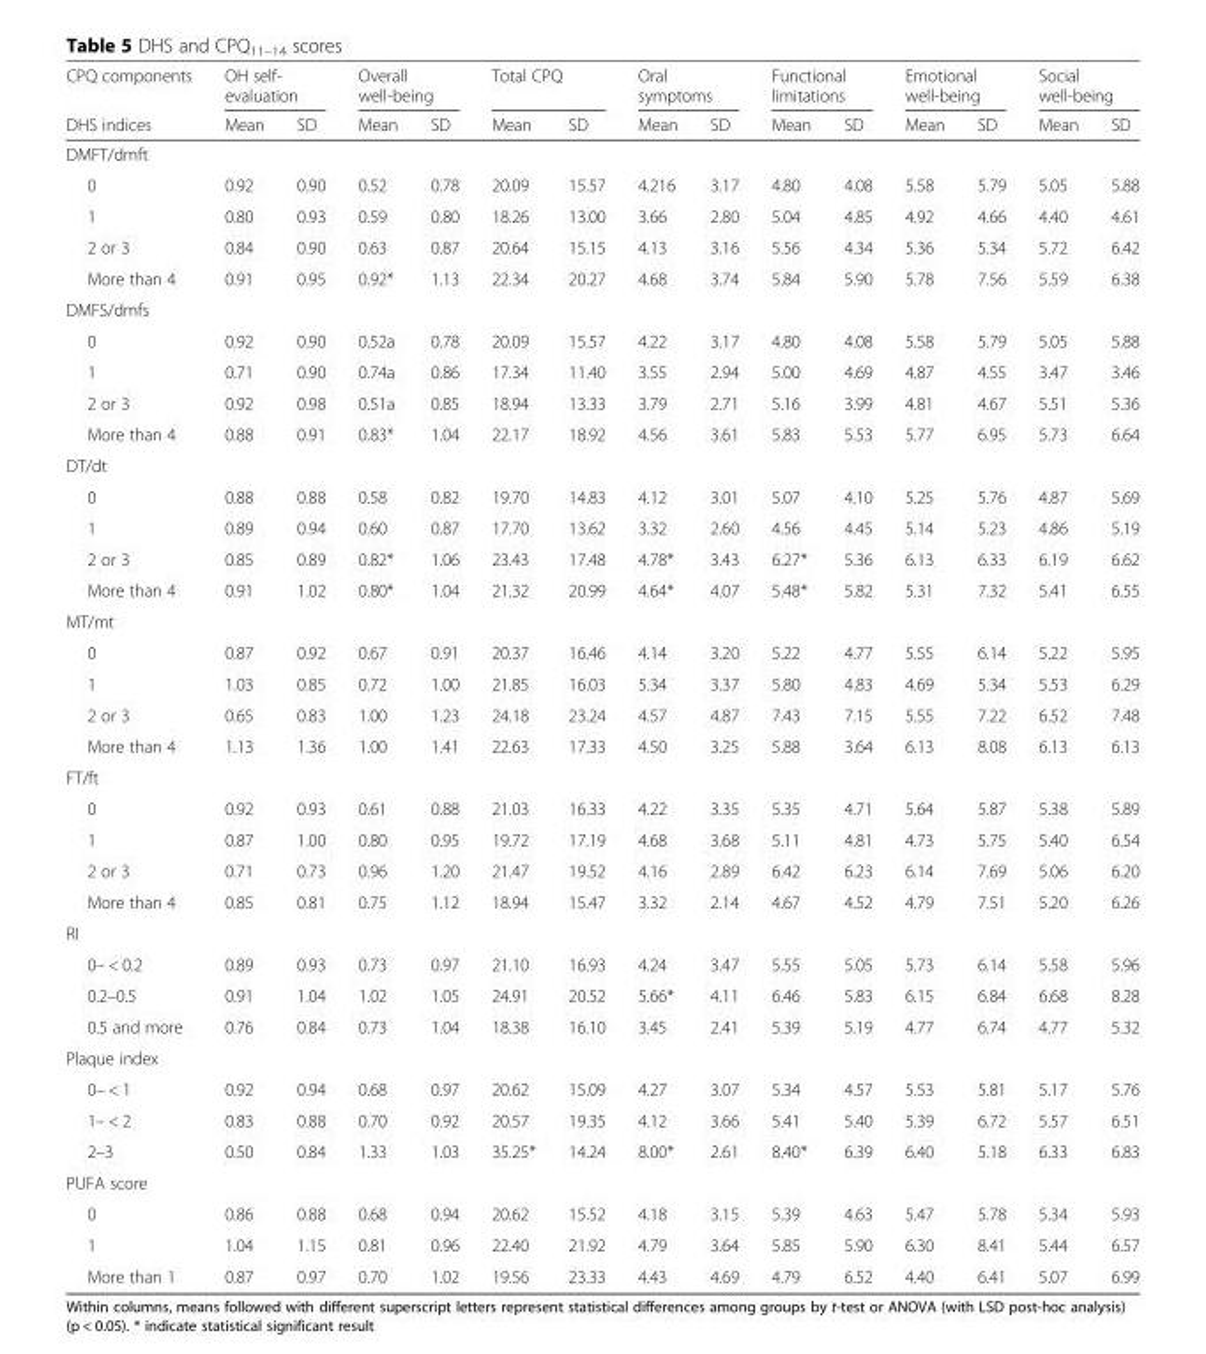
<table><thead><tr><td rowspan="2">CPQ components DHS indices</td><td colspan="2">OH self- evaluation</td><td colspan="2">Overall well-being</td><td colspan="2">Total CPQ</td><td colspan="2">Oral symptoms</td><td colspan="2">Functional limitations</td><td colspan="2">Emotional well-being</td><td colspan="2">Social well-being</td></tr><tr><td>Mean</td><td>SD</td><td>Mean</td><td>SD</td><td>Mean</td><td>SD</td><td>Mean</td><td>SD</td><td>Mean</td><td>SD</td><td>Mean</td><td>SD</td><td>Mean</td><td>SD</td></tr></thead><tbody><tr><td colspan="15">DMFT/dmft</td></tr><tr><td>0</td><td>0.92</td><td>0.90</td><td>0.52</td><td>0.78</td><td>20.09</td><td>15.57</td><td>4.216</td><td>3.17</td><td>4.80</td><td>4.08</td><td>5.58</td><td>5.79</td><td>5.05</td><td>5.88</td></tr><tr><td>1</td><td>0.80</td><td>0.93</td><td>0.59</td><td>0.80</td><td>18.26</td><td>13.00</td><td>3.66</td><td>2.80</td><td>5.04</td><td>4.85</td><td>4.92</td><td>4.66</td><td>4.40</td><td>4.61</td></tr><tr><td>2 or 3</td><td>0.84</td><td>0.90</td><td>0.63</td><td>0.87</td><td>20.64</td><td>15.15</td><td>4.13</td><td>3.16</td><td>5.56</td><td>4.34</td><td>5.36</td><td>5.34</td><td>5.72</td><td>6.42</td></tr><tr><td>More than 4</td><td>0.91</td><td>0.95</td><td>0.92*</td><td>1.13</td><td>22.34</td><td>20.27</td><td>4.68</td><td>3.74</td><td>5.84</td><td>5.90</td><td>5.78</td><td>7.56</td><td>5.59</td><td>6.38</td></tr><tr><td colspan="15">DMFS/dmfs</td></tr><tr><td>0</td><td>0.92</td><td>0.90</td><td>0.52a</td><td>0.78</td><td>20.09</td><td>15.57</td><td>4.22</td><td>3.17</td><td>4.80</td><td>4.08</td><td>5.58</td><td>5.79</td><td>5.05</td><td>5.88</td></tr><tr><td>1</td><td>0.71</td><td>0.90</td><td>0.74a</td><td>0.86</td><td>17.34</td><td>11.40</td><td>3.55</td><td>2.94</td><td>5.00</td><td>4.69</td><td>4.87</td><td>4.55</td><td>3.47</td><td>3.46</td></tr><tr><td>2 or 3</td><td>0.92</td><td>0.98</td><td>0.51a</td><td>0.85</td><td>18.94</td><td>13.33</td><td>3.79</td><td>2.71</td><td>5.16</td><td>3.99</td><td>4.81</td><td>4.67</td><td>5.51</td><td>5.36</td></tr><tr><td>More than 4</td><td>0.88</td><td>0.91</td><td>0.83*</td><td>1.04</td><td>22.17</td><td>18.92</td><td>4.56</td><td>3.61</td><td>5.83</td><td>5.53</td><td>5.77</td><td>6.95</td><td>5.73</td><td>6.64</td></tr><tr><td colspan="15">DT/dt</td></tr><tr><td>0</td><td>0.88</td><td>0.88</td><td>0.58</td><td>0.82</td><td>19.70</td><td>14.83</td><td>4.12</td><td>3.01</td><td>5.07</td><td>4.10</td><td>5.25</td><td>5.76</td><td>4.87</td><td>5.69</td></tr><tr><td>1</td><td>0.89</td><td>0.94</td><td>0.60</td><td>0.87</td><td>17.70</td><td>13.62</td><td>3.32</td><td>2.60</td><td>4.56</td><td>4.45</td><td>5.14</td><td>5.23</td><td>4.86</td><td>5.19</td></tr><tr><td>2 or 3</td><td>0.85</td><td>0.89</td><td>0.82*</td><td>1.06</td><td>23.43</td><td>17.48</td><td>4.78*</td><td>3.43</td><td>6.27*</td><td>5.36</td><td>6.13</td><td>6.33</td><td>6.19</td><td>6.62</td></tr><tr><td>More than 4</td><td>0.91</td><td>1.02</td><td>0.80*</td><td>1.04</td><td>21.32</td><td>20.99</td><td>4.64*</td><td>4.07</td><td>5.48*</td><td>5.82</td><td>5.31</td><td>7.32</td><td>5.41</td><td>6.55</td></tr><tr><td colspan="15">MT/mt</td></tr><tr><td>0</td><td>0.87</td><td>0.92</td><td>0.67</td><td>0.91</td><td>20.37</td><td>16.46</td><td>4.14</td><td>3.20</td><td>5.22</td><td>4.77</td><td>5.55</td><td>6.14</td><td>5.22</td><td>5.95</td></tr><tr><td>1</td><td>1.03</td><td>0.85</td><td>0.72</td><td>1.00</td><td>21.85</td><td>16.03</td><td>5.34</td><td>3.37</td><td>5.80</td><td>4.83</td><td>4.69</td><td>5.34</td><td>5.53</td><td>6.29</td></tr><tr><td>2 or 3</td><td>0.65</td><td>0.83</td><td>1.00</td><td>1.23</td><td>24.18</td><td>23.24</td><td>4.57</td><td>4.87</td><td>7.43</td><td>7.15</td><td>5.55</td><td>7.22</td><td>6.52</td><td>7.48</td></tr><tr><td>More than 4</td><td>1.13</td><td>1.36</td><td>1.00</td><td>1.41</td><td>22.63</td><td>17.33</td><td>4.50</td><td>3.25</td><td>5.88</td><td>3.64</td><td>6.13</td><td>8.08</td><td>6.13</td><td>6.13</td></tr><tr><td colspan="15">FT/ft</td></tr><tr><td>0</td><td>0.92</td><td>0.93</td><td>0.61</td><td>0.88</td><td>21.03</td><td>16.33</td><td>4.22</td><td>3.35</td><td>5.35</td><td>4.71</td><td>5.64</td><td>5.87</td><td>5.38</td><td>5.89</td></tr><tr><td>1</td><td>0.87</td><td>1.00</td><td>0.80</td><td>0.95</td><td>19.72</td><td>17.19</td><td>4.68</td><td>3.68</td><td>5.11</td><td>4.81</td><td>4.73</td><td>5.75</td><td>5.40</td><td>6.54</td></tr><tr><td>2 or 3</td><td>0.71</td><td>0.73</td><td>0.96</td><td>1.20</td><td>21.47</td><td>19.52</td><td>4.16</td><td>2.89</td><td>6.42</td><td>6.23</td><td>6.14</td><td>7.69</td><td>5.06</td><td>6.20</td></tr><tr><td>More than 4</td><td>0.85</td><td>0.81</td><td>0.75</td><td>1.12</td><td>18.94</td><td>15.47</td><td>3.32</td><td>2.14</td><td>4.67</td><td>4.52</td><td>4.79</td><td>7.51</td><td>5.20</td><td>6.26</td></tr><tr><td colspan="15">RI</td></tr><tr><td>0– &lt; 0.2</td><td>0.89</td><td>0.93</td><td>0.73</td><td>0.97</td><td>21.10</td><td>16.93</td><td>4.24</td><td>3.47</td><td>5.55</td><td>5.05</td><td>5.73</td><td>6.14</td><td>5.58</td><td>5.96</td></tr><tr><td>0.2–0.5</td><td>0.91</td><td>1.04</td><td>1.02</td><td>1.05</td><td>24.91</td><td>20.52</td><td>5.66*</td><td>4.11</td><td>6.46</td><td>5.83</td><td>6.15</td><td>6.84</td><td>6.68</td><td>8.28</td></tr><tr><td>0.5 and more</td><td>0.76</td><td>0.84</td><td>0.73</td><td>1.04</td><td>18.38</td><td>16.10</td><td>3.45</td><td>2.41</td><td>5.39</td><td>5.19</td><td>4.77</td><td>6.74</td><td>4.77</td><td>5.32</td></tr><tr><td colspan="15">Plaque index</td></tr><tr><td>0– &lt; 1</td><td>0.92</td><td>0.94</td><td>0.68</td><td>0.97</td><td>20.62</td><td>15.09</td><td>4.27</td><td>3.07</td><td>5.34</td><td>4.57</td><td>5.53</td><td>5.81</td><td>5.17</td><td>5.76</td></tr><tr><td>1– &lt; 2</td><td>0.83</td><td>0.88</td><td>0.70</td><td>0.92</td><td>20.57</td><td>19.35</td><td>4.12</td><td>3.66</td><td>5.41</td><td>5.40</td><td>5.39</td><td>6.72</td><td>5.57</td><td>6.51</td></tr><tr><td>2–3</td><td>0.50</td><td>0.84</td><td>1.33</td><td>1.03</td><td>35.25*</td><td>14.24</td><td>8.00*</td><td>2.61</td><td>8.40*</td><td>6.39</td><td>6.40</td><td>5.18</td><td>6.33</td><td>6.83</td></tr><tr><td colspan="15">PUFA score</td></tr><tr><td>0</td><td>0.86</td><td>0.88</td><td>0.68</td><td>0.94</td><td>20.62</td><td>15.52</td><td>4.18</td><td>3.15</td><td>5.39</td><td>4.63</td><td>5.47</td><td>5.78</td><td>5.34</td><td>5.93</td></tr><tr><td>1</td><td>1.04</td><td>1.15</td><td>0.81</td><td>0.96</td><td>22.40</td><td>21.92</td><td>4.79</td><td>3.64</td><td>5.85</td><td>5.90</td><td>6.30</td><td>8.41</td><td>5.44</td><td>6.57</td></tr><tr><td>More than 1</td><td>0.87</td><td>0.97</td><td>0.70</td><td>1.02</td><td>19.56</td><td>23.33</td><td>4.43</td><td>4.69</td><td>4.79</td><td>6.52</td><td>4.40</td><td>6.41</td><td>5.07</td><td>6.99</td></tr></tbody></table>